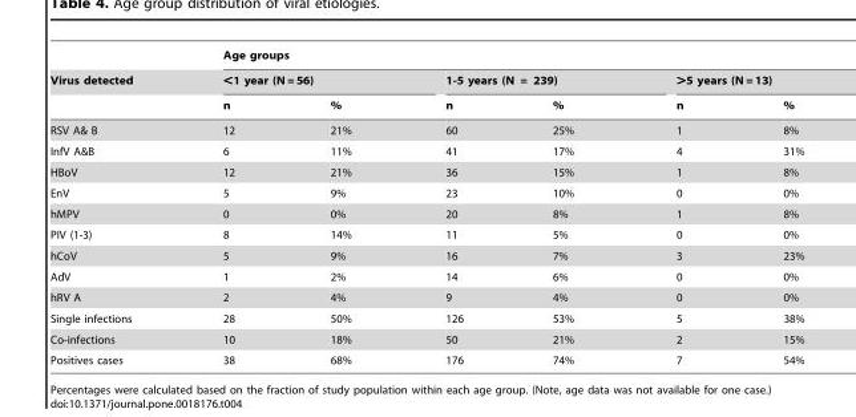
<table><thead><tr><td rowspan="3">Virus detected</td><td colspan="6">Age groups</td></tr><tr><td colspan="2">&lt;1 year (N = 56)</td><td colspan="2">1-5 years (N = 239)</td><td colspan="2">&gt;5 years (N = 13)</td></tr><tr><td>n</td><td>%</td><td>n</td><td>%</td><td>n</td><td>%</td></tr></thead><tbody><tr><td>RSV A&amp; B</td><td>12</td><td>21%</td><td>60</td><td>25%</td><td>1</td><td>8%</td></tr><tr><td>InfV A&amp;B</td><td>6</td><td>11%</td><td>41</td><td>17%</td><td>4</td><td>31%</td></tr><tr><td>HBoV</td><td>12</td><td>21%</td><td>36</td><td>15%</td><td>1</td><td>8%</td></tr><tr><td>EnV</td><td>5</td><td>9%</td><td>23</td><td>10%</td><td>0</td><td>0%</td></tr><tr><td>hMPV</td><td>0</td><td>0%</td><td>20</td><td>8%</td><td>1</td><td>8%</td></tr><tr><td>PIV (1-3)</td><td>8</td><td>14%</td><td>11</td><td>5%</td><td>0</td><td>0%</td></tr><tr><td>hCoV</td><td>5</td><td>9%</td><td>16</td><td>7%</td><td>3</td><td>23%</td></tr><tr><td>AdV</td><td>1</td><td>2%</td><td>14</td><td>6%</td><td>0</td><td>0%</td></tr><tr><td>hRV A</td><td>2</td><td>4%</td><td>9</td><td>4%</td><td>0</td><td>0%</td></tr><tr><td>Single infections</td><td>28</td><td>50%</td><td>126</td><td>53%</td><td>5</td><td>38%</td></tr><tr><td>Co-infections</td><td>10</td><td>18%</td><td>50</td><td>21%</td><td>2</td><td>15%</td></tr><tr><td>Positives cases</td><td>38</td><td>68%</td><td>176</td><td>74%</td><td>7</td><td>54%</td></tr></tbody></table>